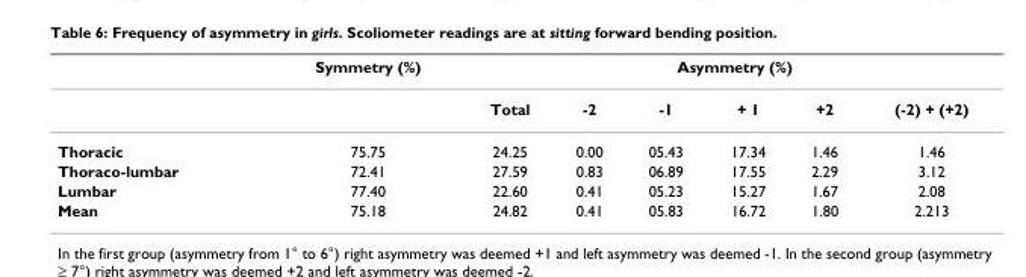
<table><thead><tr><td rowspan="2"></td><td rowspan="2">Symmetry (%)</td><td colspan="6">Asymmetry (%)</td></tr><tr><td>Total</td><td>-2</td><td>-1</td><td>+ 1</td><td>+2</td><td>(-2) + (+2)</td></tr></thead><tbody><tr><td>Thoracic</td><td>75.75</td><td>24.25</td><td>0.00</td><td>05.43</td><td>17.34</td><td>1.46</td><td>1.46</td></tr><tr><td>Thoraco-lumbar</td><td>72.41</td><td>27.59</td><td>0.83</td><td>06.89</td><td>17.55</td><td>2.29</td><td>3.12</td></tr><tr><td>Lumbar</td><td>77.40</td><td>22.60</td><td>0.41</td><td>05.23</td><td>15.27</td><td>1.67</td><td>2.08</td></tr><tr><td>Mean</td><td>75.18</td><td>24.82</td><td>0.41</td><td>05.83</td><td>16.72</td><td>1.80</td><td>2.213</td></tr></tbody></table>